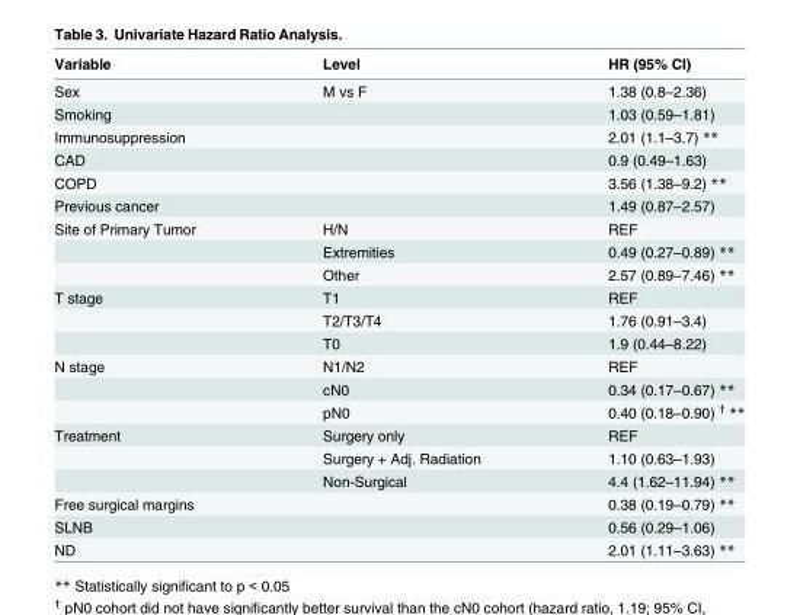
<table><thead><tr><td>Variable</td><td>Level</td><td>HR (95% CI)</td></tr></thead><tbody><tr><td>Sex</td><td>M vs F</td><td>1.38 (0.8–2.36)</td></tr><tr><td>Smoking</td><td></td><td>1.03 (0.59–1.81)</td></tr><tr><td>Immunosuppression</td><td></td><td>2.01 (1.1–3.7) **</td></tr><tr><td>CAD</td><td></td><td>0.9 (0.49–1.63)</td></tr><tr><td>COPD</td><td></td><td>3.56 (1.38–9.2) **</td></tr><tr><td>Previous cancer</td><td></td><td>1.49 (0.87–2.57)</td></tr><tr><td rowspan="3">Site of Primary Tumor</td><td>H/N</td><td>REF</td></tr><tr><td>Extremities</td><td>0.49 (0.27–0.89) **</td></tr><tr><td>Other</td><td>2.57 (0.89–7.46) **</td></tr><tr><td rowspan="3">T stage</td><td>T1</td><td>REF</td></tr><tr><td>T2/T3/T4</td><td>1.76 (0.91–3.4)</td></tr><tr><td>T0</td><td>1.9 (0.44–8.22)</td></tr><tr><td rowspan="3">N stage</td><td>N1/N2</td><td>REF</td></tr><tr><td>cN0</td><td>0.34 (0.17–0.67) **</td></tr><tr><td>pN0</td><td>0.40 (0.18–0.90) <sup>†</sup> **</td></tr><tr><td rowspan="3">Treatment</td><td>Surgery only</td><td>REF</td></tr><tr><td>Surgery + Adj. Radiation</td><td>1.10 (0.63–1.93)</td></tr><tr><td>Non-Surgical</td><td>4.4 (1.62–11.94) **</td></tr><tr><td>Free surgical margins</td><td></td><td>0.38 (0.19–0.79) **</td></tr><tr><td>SLNB</td><td></td><td>0.56 (0.29–1.06)</td></tr><tr><td>ND</td><td></td><td>2.01 (1.11–3.63) **</td></tr></tbody></table>